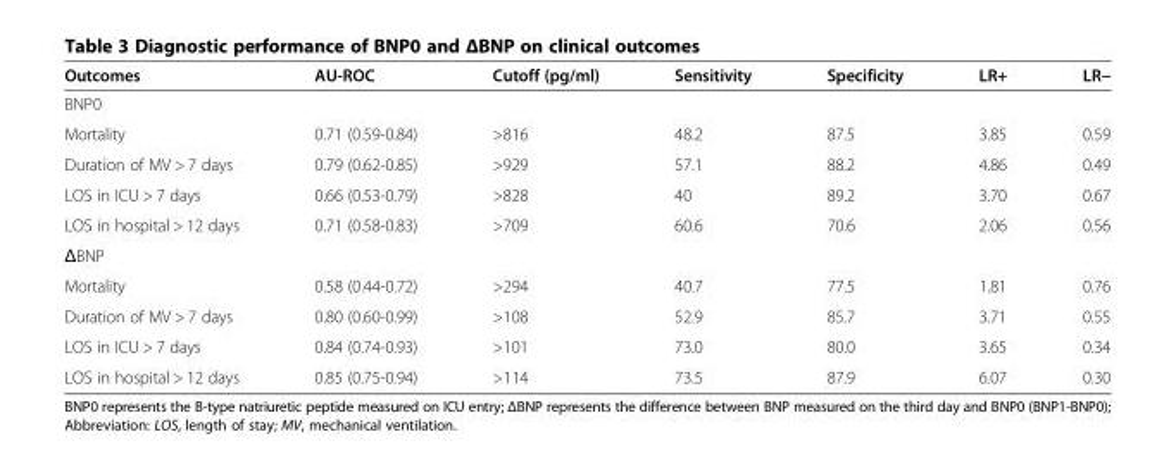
<table><thead><tr><td>Outcomes</td><td>AU-ROC</td><td>Cutoff (pg/ml)</td><td>Sensitivity</td><td>Specificity</td><td>LR+</td><td>LR−</td></tr></thead><tbody><tr><td colspan="7">BNP0</td></tr><tr><td>Mortality</td><td>0.71 (0.59-0.84)</td><td>&gt;816</td><td>48.2</td><td>87.5</td><td>3.85</td><td>0.59</td></tr><tr><td>Duration of MV &gt; 7 days</td><td>0.79 (0.62-0.85)</td><td>&gt;929</td><td>57.1</td><td>88.2</td><td>4.86</td><td>0.49</td></tr><tr><td>LOS in ICU &gt; 7 days</td><td>0.66 (0.53-0.79)</td><td>&gt;828</td><td>40</td><td>89.2</td><td>3.70</td><td>0.67</td></tr><tr><td>LOS in hospital &gt; 12 days</td><td>0.71 (0.58-0.83)</td><td>&gt;709</td><td>60.6</td><td>70.6</td><td>2.06</td><td>0.56</td></tr><tr><td colspan="7">ΔBNP</td></tr><tr><td>Mortality</td><td>0.58 (0.44-0.72)</td><td>&gt;294</td><td>40.7</td><td>77.5</td><td>1.81</td><td>0.76</td></tr><tr><td>Duration of MV &gt; 7 days</td><td>0.80 (0.60-0.99)</td><td>&gt;108</td><td>52.9</td><td>85.7</td><td>3.71</td><td>0.55</td></tr><tr><td>LOS in ICU &gt; 7 days</td><td>0.84 (0.74-0.93)</td><td>&gt;101</td><td>73.0</td><td>80.0</td><td>3.65</td><td>0.34</td></tr><tr><td>LOS in hospital &gt; 12 days</td><td>0.85 (0.75-0.94)</td><td>&gt;114</td><td>73.5</td><td>87.9</td><td>6.07</td><td>0.30</td></tr></tbody></table>